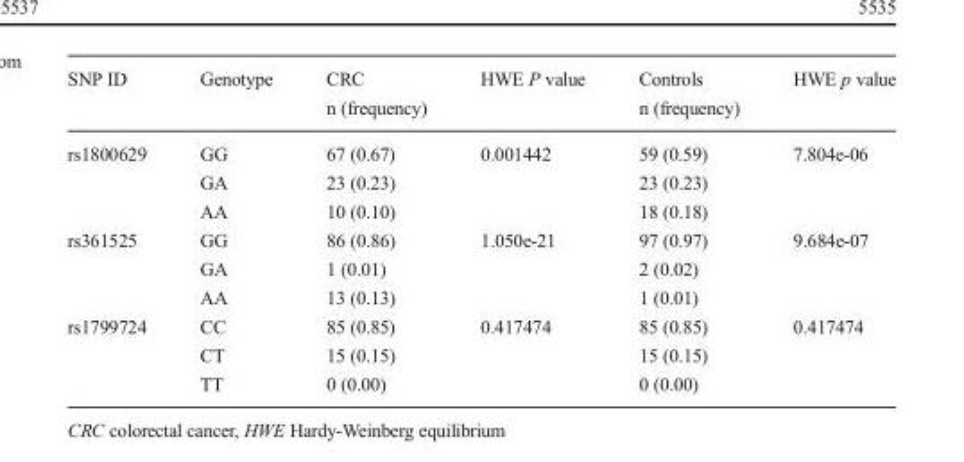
<table><thead><tr><td>SNP ID</td><td>Genotype</td><td>CRC n (frequency)</td><td>HWE P value</td><td>Controls n (frequency)</td><td>HWE p value</td></tr></thead><tbody><tr><td rowspan="3">rs1800629</td><td>GG</td><td>67 (0.67)</td><td>0.001442</td><td>59 (0.59)</td><td>7.804e-06</td></tr><tr><td>GA</td><td>23 (0.23)</td><td></td><td>23 (0.23)</td><td></td></tr><tr><td>AA</td><td>10 (0.10)</td><td></td><td>18 (0.18)</td><td></td></tr><tr><td rowspan="3">rs361525</td><td>GG</td><td>86 (0.86)</td><td>1.050e-21</td><td>97 (0.97)</td><td>9.684e-07</td></tr><tr><td>GA</td><td>1 (0.01)</td><td></td><td>2 (0.02)</td><td></td></tr><tr><td>AA</td><td>13 (0.13)</td><td></td><td>1 (0.01)</td><td></td></tr><tr><td rowspan="3">rs1799724</td><td>CC</td><td>85 (0.85)</td><td>0.417474</td><td>85 (0.85)</td><td>0.417474</td></tr><tr><td>CT</td><td>15 (0.15)</td><td></td><td>15 (0.15)</td><td></td></tr><tr><td>TT</td><td>0 (0.00)</td><td></td><td>0 (0.00)</td><td></td></tr></tbody></table>